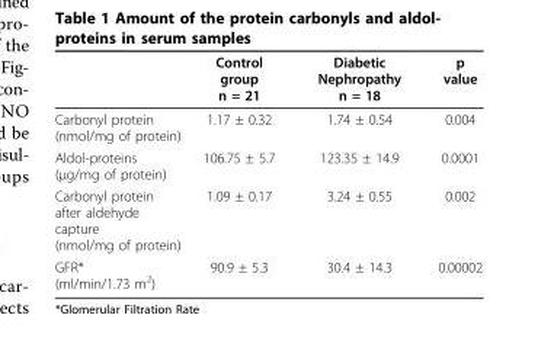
<table><thead><tr><td></td><td>Control group n = 21</td><td>Diabetic Nephropathy n = 18</td><td>p value</td></tr></thead><tbody><tr><td>Carbonyl protein (nmol/mg of protein)</td><td>1.17 ± 0.32</td><td>1.74 ± 0.54</td><td>0.004</td></tr><tr><td>Aldol-proteins (μg/mg of protein)</td><td>106.75 ± 5.7</td><td>123.35 ± 14.9</td><td>0.0001</td></tr><tr><td>Carbonyl protein after aldehyde capture (nmol/mg of protein)</td><td>1.09 ± 0.17</td><td>3.24 ± 0.55</td><td>0.002</td></tr><tr><td>GFR* (ml/min/1.73 m<sup>2</sup>)</td><td>90.9 ± 5.3</td><td>30.4 ± 14.3</td><td>0.00002</td></tr></tbody></table>